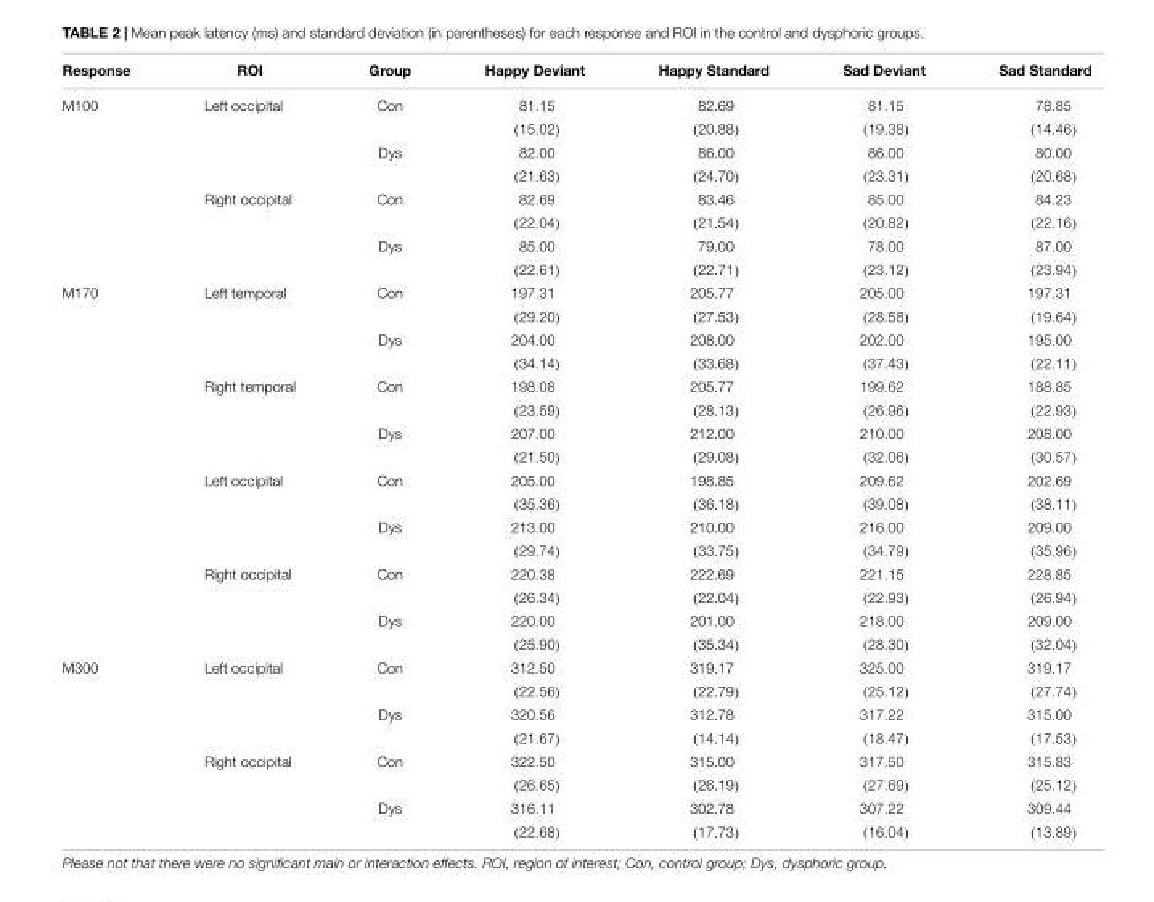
<table><thead><tr><td>Response</td><td>ROI</td><td>Group</td><td>Happy Deviant</td><td>Happy Standard</td><td>Sad Deviant</td><td>Sad Standard</td></tr></thead><tbody><tr><td rowspan="8">M100</td><td>Left occipital</td><td>Con</td><td>81.15</td><td>82.69</td><td>81.15</td><td>78.85</td></tr><tr><td></td><td></td><td>(15.02)</td><td>(20.88)</td><td>(19.38)</td><td>(14.46)</td></tr><tr><td></td><td>Dys</td><td>82.00</td><td>86.00</td><td>86.00</td><td>80.00</td></tr><tr><td></td><td></td><td>(21.63)</td><td>(24.70)</td><td>(23.31)</td><td>(20.68)</td></tr><tr><td>Right occipital</td><td>Con</td><td>82.69</td><td>83.46</td><td>85.00</td><td>84.23</td></tr><tr><td></td><td></td><td>(22.04)</td><td>(21.54)</td><td>(20.82)</td><td>(22.16)</td></tr><tr><td></td><td>Dys</td><td>85.00</td><td>79.00</td><td>78.00</td><td>87.00</td></tr><tr><td></td><td></td><td>(22.61)</td><td>(22.71)</td><td>(23.12)</td><td>(23.94)</td></tr><tr><td rowspan="16">M170</td><td>Left temporal</td><td>Con</td><td>197.31</td><td>205.77</td><td>205.00</td><td>197.31</td></tr><tr><td></td><td></td><td>(29.20)</td><td>(27.53)</td><td>(28.58)</td><td>(19.64)</td></tr><tr><td></td><td>Dys</td><td>204.00</td><td>208.00</td><td>202.00</td><td>195.00</td></tr><tr><td></td><td></td><td>(34.14)</td><td>(33.68)</td><td>(37.43)</td><td>(22.11)</td></tr><tr><td>Right temporal</td><td>Con</td><td>198.08</td><td>205.77</td><td>199.62</td><td>188.85</td></tr><tr><td></td><td></td><td>(23.59)</td><td>(28.13)</td><td>(26.96)</td><td>(22.93)</td></tr><tr><td></td><td>Dys</td><td>207.00</td><td>212.00</td><td>210.00</td><td>208.00</td></tr><tr><td></td><td></td><td>(21.50)</td><td>(29.08)</td><td>(32.06)</td><td>(30.57)</td></tr><tr><td>Left occipital</td><td>Con</td><td>205.00</td><td>198.85</td><td>209.62</td><td>202.69</td></tr><tr><td></td><td></td><td>(35.36)</td><td>(36.18)</td><td>(39.08)</td><td>(38.11)</td></tr><tr><td></td><td>Dys</td><td>213.00</td><td>210.00</td><td>216.00</td><td>209.00</td></tr><tr><td></td><td></td><td>(29.74)</td><td>(33.75)</td><td>(34.79)</td><td>(35.96)</td></tr><tr><td>Right occipital</td><td>Con</td><td>220.38</td><td>222.69</td><td>221.15</td><td>228.85</td></tr><tr><td></td><td></td><td>(26.34)</td><td>(22.04)</td><td>(22.93)</td><td>(26.94)</td></tr><tr><td></td><td>Dys</td><td>220.00</td><td>201.00</td><td>218.00</td><td>209.00</td></tr><tr><td></td><td></td><td>(25.90)</td><td>(35.34)</td><td>(28.30)</td><td>(32.04)</td></tr><tr><td rowspan="8">M300</td><td>Left occipital</td><td>Con</td><td>312.50</td><td>319.17</td><td>325.00</td><td>319.17</td></tr><tr><td></td><td></td><td>(22.56)</td><td>(22.79)</td><td>(25.12)</td><td>(27.74)</td></tr><tr><td></td><td>Dys</td><td>320.56</td><td>312.78</td><td>317.22</td><td>315.00</td></tr><tr><td></td><td></td><td>(21.67)</td><td>(14.14)</td><td>(18.47)</td><td>(17.53)</td></tr><tr><td>Right occipital</td><td>Con</td><td>322.50</td><td>315.00</td><td>317.50</td><td>315.83</td></tr><tr><td></td><td></td><td>(26.65)</td><td>(26.19)</td><td>(27.69)</td><td>(25.12)</td></tr><tr><td></td><td>Dys</td><td>316.11</td><td>302.78</td><td>307.22</td><td>309.44</td></tr><tr><td></td><td></td><td>(22.68)</td><td>(17.73)</td><td>(16.04)</td><td>(13.89)</td></tr></tbody></table>